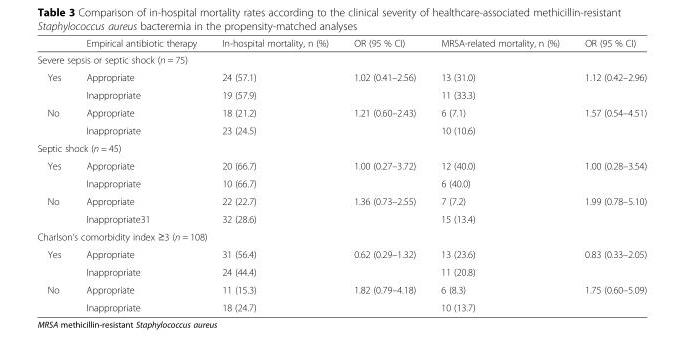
<table><thead><tr><td></td><td>Empirical antibiotic therapy</td><td>In-hospital mortality, n (%)</td><td>OR (95 % CI)</td><td>MRSA-related mortality, n (%)</td><td>OR (95 % CI)</td></tr></thead><tbody><tr><td colspan="6">Severe sepsis or septic shock (n = 75)</td></tr><tr><td rowspan="2">Yes</td><td>Appropriate</td><td>24 (57.1)</td><td rowspan="2">1.02 (0.41–2.56)</td><td>13 (31.0)</td><td rowspan="2">1.12 (0.42–2.96)</td></tr><tr><td>Inappropriate</td><td>19 (57.9)</td><td>11 (33.3)</td></tr><tr><td rowspan="2">No</td><td>Appropriate</td><td>18 (21.2)</td><td rowspan="2">1.21 (0.60–2.43)</td><td>6 (7.1)</td><td rowspan="2">1.57 (0.54–4.51)</td></tr><tr><td>Inappropriate</td><td>23 (24.5)</td><td>10 (10.6)</td></tr><tr><td colspan="6">Septic shock (n = 45)</td></tr><tr><td rowspan="2">Yes</td><td>Appropriate</td><td>20 (66.7)</td><td rowspan="2">1.00 (0.27–3.72)</td><td>12 (40.0)</td><td rowspan="2">1.00 (0.28–3.54)</td></tr><tr><td>Inappropriate</td><td>10 (66.7)</td><td>6 (40.0)</td></tr><tr><td rowspan="2">No</td><td>Appropriate</td><td>22 (22.7)</td><td rowspan="2">1.36 (0.73–2.55)</td><td>7 (7.2)</td><td rowspan="2">1.99 (0.78–5.10)</td></tr><tr><td>Inappropriate31</td><td>32 (28.6)</td><td>15 (13.4)</td></tr><tr><td colspan="6">Charlson’s comorbidity index ≥3 (n = 108)</td></tr><tr><td rowspan="2">Yes</td><td>Appropriate</td><td>31 (56.4)</td><td>0.62 (0.29–1.32)</td><td>13 (23.6)</td><td>0.83 (0.33–2.05)</td></tr><tr><td>Inappropriate</td><td>24 (44.4)</td><td></td><td>11 (20.8)</td><td></td></tr><tr><td rowspan="2">No</td><td>Appropriate</td><td>11 (15.3)</td><td>1.82 (0.79–4.18)</td><td>6 (8.3)</td><td>1.75 (0.60–5.09)</td></tr><tr><td>Inappropriate</td><td>18 (24.7)</td><td></td><td>10 (13.7)</td><td></td></tr></tbody></table>